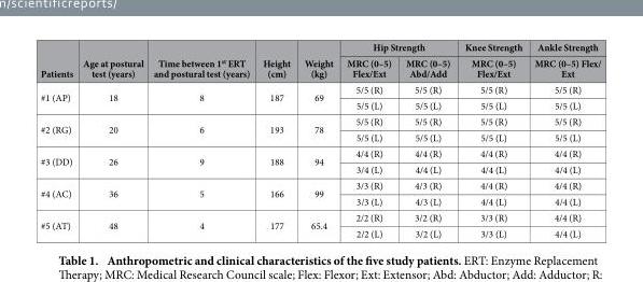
<table><thead><tr><td rowspan="2">Patients</td><td rowspan="2">Age at postural test (years)</td><td rowspan="2">Time between 1<sup>st</sup> ERT and postural test (years)</td><td rowspan="2">Height (cm)</td><td rowspan="2">Weight (kg)</td><td colspan="2">Hip Strength</td><td rowspan="2">Knee Strength MRC (0–5) Flex/Ext</td><td rowspan="2">Ankle Strength MRC (0–5) Flex/ Ext</td></tr><tr><td>MRC (0–5) Flex/Ext</td><td>MRC (0–5) Abd/Add</td></tr></thead><tbody><tr><td rowspan="2">#1 (AP)</td><td rowspan="2">18</td><td rowspan="2">8</td><td rowspan="2">187</td><td rowspan="2">69</td><td>5/5 (R)</td><td>5/5 (R)</td><td>5/5 (R)</td><td>5/5 (R)</td></tr><tr><td>5/5 (L)</td><td>5/5 (L)</td><td>5/5 (L)</td><td>5/5 (L)</td></tr><tr><td rowspan="2">#2 (RG)</td><td rowspan="2">20</td><td rowspan="2">6</td><td rowspan="2">193</td><td rowspan="2">78</td><td>5/5 (R)</td><td>5/5 (R)</td><td>5/5 (R)</td><td>5/5 (R)</td></tr><tr><td>5/5 (L)</td><td>5/5 (L)</td><td>5/5 (L)</td><td>5/5 (L)</td></tr><tr><td rowspan="2">#3 (DD)</td><td rowspan="2">26</td><td rowspan="2">9</td><td rowspan="2">188</td><td rowspan="2">94</td><td>4/4 (R)</td><td>4/4 (R)</td><td>4/4 (R)</td><td>4/4 (R)</td></tr><tr><td>3/4 (L)</td><td>4/4 (L)</td><td>4/4 (L)</td><td>4/4 (L)</td></tr><tr><td rowspan="2">#4 (AC)</td><td rowspan="2">36</td><td rowspan="2">5</td><td rowspan="2">166</td><td rowspan="2">99</td><td>3/3 (R)</td><td>4/3 (R)</td><td>4/4 (R)</td><td>4/4 (R)</td></tr><tr><td>3/3 (L)</td><td>4/3 (L)</td><td>4/4 (L)</td><td>4/4 (L)</td></tr><tr><td rowspan="2">#5 (AT)</td><td rowspan="2">48</td><td rowspan="2">4</td><td rowspan="2">177</td><td rowspan="2">65.4</td><td>2/2 (R)</td><td>3/2 (R)</td><td>3/3 (R)</td><td>4/4 (R)</td></tr><tr><td>2/2 (L)</td><td>3/2 (L)</td><td>3/3 (L)</td><td>4/4 (L)</td></tr></tbody></table>